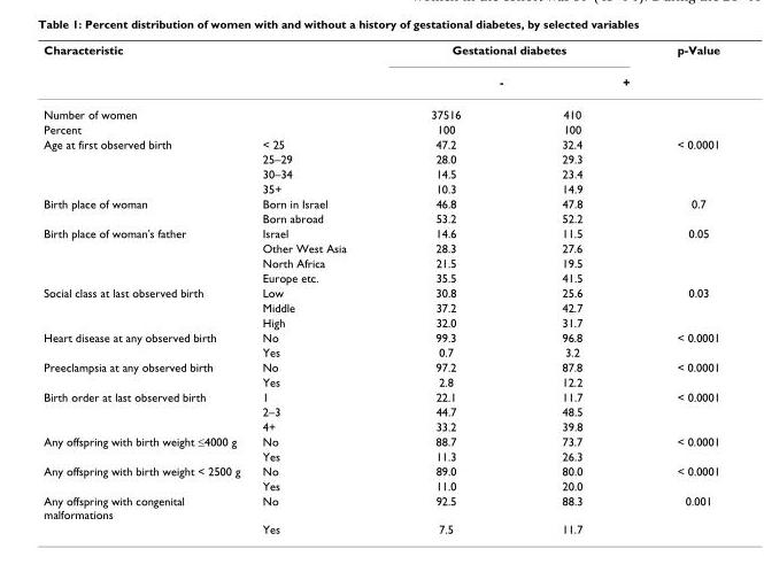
<table><thead><tr><td rowspan="2">Characteristic</td><td rowspan="2"></td><td colspan="2">Gestational diabetes</td><td rowspan="2">p-Value</td></tr><tr><td>-</td><td>+</td></tr></thead><tbody><tr><td>Number of women</td><td></td><td>37516</td><td>410</td><td></td></tr><tr><td>Percent</td><td></td><td>100</td><td>100</td><td></td></tr><tr><td rowspan="4">Age at first observed birth</td><td>&lt; 25</td><td>47.2</td><td>32.4</td><td>&lt; 0.0001</td></tr><tr><td>25–29</td><td>28.0</td><td>29.3</td><td></td></tr><tr><td>30–34</td><td>14.5</td><td>23.4</td><td></td></tr><tr><td>35+</td><td>10.3</td><td>14.9</td><td></td></tr><tr><td rowspan="2">Birth place of woman</td><td>Born in Israel</td><td>46.8</td><td>47.8</td><td>0.7</td></tr><tr><td>Born abroad</td><td>53.2</td><td>52.2</td><td></td></tr><tr><td rowspan="4">Birth place of woman&#x27;s father</td><td>Israel</td><td>14.6</td><td>11.5</td><td>0.05</td></tr><tr><td>Other West Asia</td><td>28.3</td><td>27.6</td><td></td></tr><tr><td>North Africa</td><td>21.5</td><td>19.5</td><td></td></tr><tr><td>Europe etc.</td><td>35.5</td><td>41.5</td><td></td></tr><tr><td rowspan="3">Social class at last observed birth</td><td>Low</td><td>30.8</td><td>25.6</td><td>0.03</td></tr><tr><td>Middle</td><td>37.2</td><td>42.7</td><td></td></tr><tr><td>High</td><td>32.0</td><td>31.7</td><td></td></tr><tr><td rowspan="2">Heart disease at any observed birth</td><td>No</td><td>99.3</td><td>96.8</td><td>&lt; 0.0001</td></tr><tr><td>Yes</td><td>0.7</td><td>3.2</td><td></td></tr><tr><td rowspan="2">Preeclampsia at any observed birth</td><td>No</td><td>97.2</td><td>87.8</td><td>&lt; 0.0001</td></tr><tr><td>Yes</td><td>2.8</td><td>12.2</td><td></td></tr><tr><td rowspan="3">Birth order at last observed birth</td><td>1</td><td>22.1</td><td>11.7</td><td>&lt; 0.0001</td></tr><tr><td>2–3</td><td>44.7</td><td>48.5</td><td></td></tr><tr><td>4+</td><td>33.2</td><td>39.8</td><td></td></tr><tr><td rowspan="2">Any offspring with birth weight ≤4000 g</td><td>No</td><td>88.7</td><td>73.7</td><td>&lt; 0.0001</td></tr><tr><td>Yes</td><td>11.3</td><td>26.3</td><td></td></tr><tr><td rowspan="2">Any offspring with birth weight &lt; 2500 g</td><td>No</td><td>89.0</td><td>80.0</td><td>&lt; 0.0001</td></tr><tr><td>Yes</td><td>11.0</td><td>20.0</td><td></td></tr><tr><td rowspan="2">Any offspring with congenital malformations</td><td>No</td><td>92.5</td><td>88.3</td><td>0.001</td></tr><tr><td>Yes</td><td>7.5</td><td>11.7</td><td></td></tr></tbody></table>